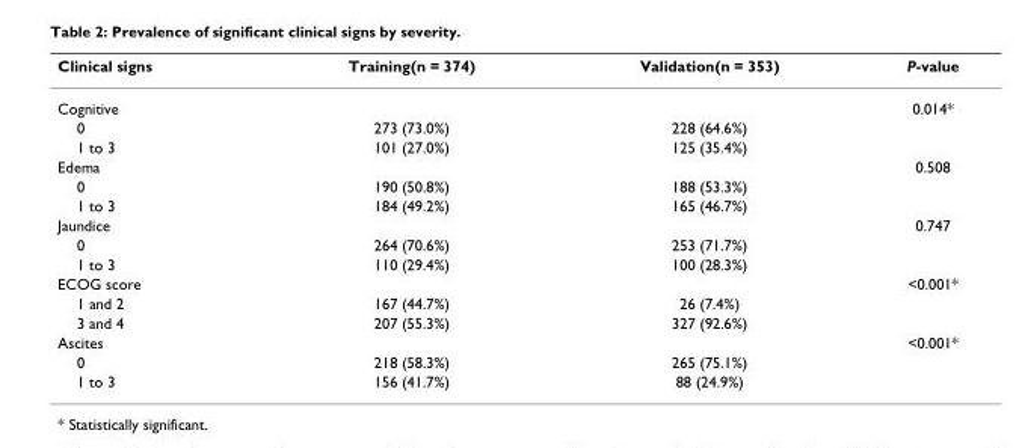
<table><thead><tr><td>Clinical signs</td><td>Training(n = 374)</td><td>Validation(n = 353)</td><td>P-value</td></tr></thead><tbody><tr><td>Cognitive</td><td></td><td></td><td>0.014*</td></tr><tr><td>0</td><td>273 (73.0%)</td><td>228 (64.6%)</td><td></td></tr><tr><td>1 to 3</td><td>101 (27.0%)</td><td>125 (35.4%)</td><td></td></tr><tr><td>Edema</td><td></td><td></td><td>0.508</td></tr><tr><td>0</td><td>190 (50.8%)</td><td>188 (53.3%)</td><td></td></tr><tr><td>1 to 3</td><td>184 (49.2%)</td><td>165 (46.7%)</td><td></td></tr><tr><td>Jaundice</td><td></td><td></td><td>0.747</td></tr><tr><td>0</td><td>264 (70.6%)</td><td>253 (71.7%)</td><td></td></tr><tr><td>1 to 3</td><td>110 (29.4%)</td><td>100 (28.3%)</td><td></td></tr><tr><td>ECOG score</td><td></td><td></td><td>&lt;0.001*</td></tr><tr><td>1 and 2</td><td>167 (44.7%)</td><td>26 (7.4%)</td><td></td></tr><tr><td>3 and 4</td><td>207 (55.3%)</td><td>327 (92.6%)</td><td></td></tr><tr><td>Ascites</td><td></td><td></td><td>&lt;0.001*</td></tr><tr><td>0</td><td>218 (58.3%)</td><td>265 (75.1%)</td><td></td></tr><tr><td>1 to 3</td><td>156 (41.7%)</td><td>88 (24.9%)</td><td></td></tr></tbody></table>